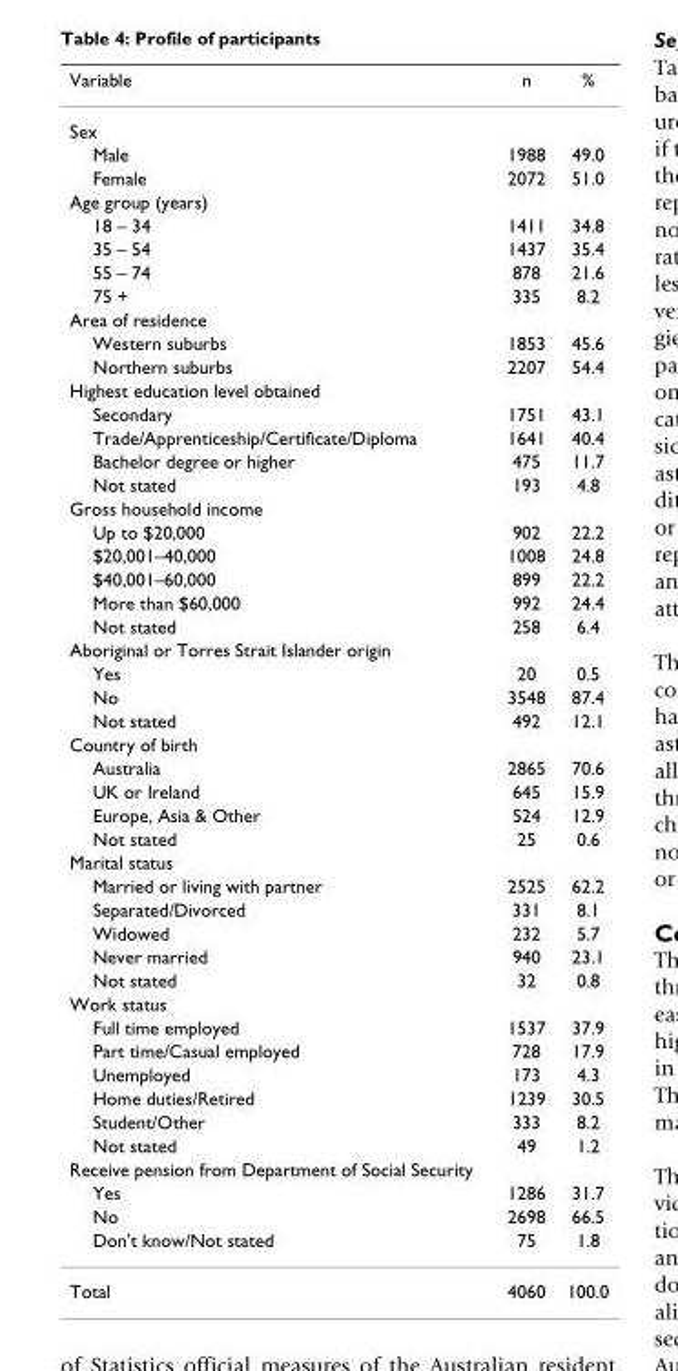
<table><thead><tr><td>Variable</td><td>n</td><td>%</td></tr></thead><tbody><tr><td colspan="3">Sex</td></tr><tr><td>Male</td><td>1988</td><td>49.0</td></tr><tr><td>Female</td><td>2072</td><td>51.0</td></tr><tr><td colspan="3">Age group (years)</td></tr><tr><td>18 – 34</td><td>1411</td><td>34.8</td></tr><tr><td>35 – 54</td><td>1437</td><td>35.4</td></tr><tr><td>55 – 74</td><td>878</td><td>21.6</td></tr><tr><td>75 +</td><td>335</td><td>8.2</td></tr><tr><td colspan="3">Area of residence</td></tr><tr><td>Western suburbs</td><td>1853</td><td>45.6</td></tr><tr><td>Northern suburbs</td><td>2207</td><td>54.4</td></tr><tr><td colspan="3">Highest education level obtained</td></tr><tr><td>Secondary</td><td>1751</td><td>43.1</td></tr><tr><td>Trade/Apprenticeship/Certificate/Diploma</td><td>1641</td><td>40.4</td></tr><tr><td>Bachelor degree or higher</td><td>475</td><td>11.7</td></tr><tr><td>Not stated</td><td>193</td><td>4.8</td></tr><tr><td colspan="3">Gross household income</td></tr><tr><td>Up to $20,000</td><td>902</td><td>22.2</td></tr><tr><td>$20,001–40,000</td><td>1008</td><td>24.8</td></tr><tr><td>$40,001–60,000</td><td>899</td><td>22.2</td></tr><tr><td>More than $60,000</td><td>992</td><td>24.4</td></tr><tr><td>Not stated</td><td>258</td><td>6.4</td></tr><tr><td colspan="3">Aboriginal or Torres Strait Islander origin</td></tr><tr><td>Yes</td><td>20</td><td>0.5</td></tr><tr><td>No</td><td>3548</td><td>87.4</td></tr><tr><td>Not stated</td><td>492</td><td>12.1</td></tr><tr><td colspan="3">Country of birth</td></tr><tr><td>Australia</td><td>2865</td><td>70.6</td></tr><tr><td>UK or Ireland</td><td>645</td><td>15.9</td></tr><tr><td>Europe, Asia &amp; Other</td><td>524</td><td>12.9</td></tr><tr><td>Not stated</td><td>25</td><td>0.6</td></tr><tr><td colspan="3">Marital status</td></tr><tr><td>Married or living with partner</td><td>2525</td><td>62.2</td></tr><tr><td>Separated/Divorced</td><td>331</td><td>8.1</td></tr><tr><td>Widowed</td><td>232</td><td>5.7</td></tr><tr><td>Never married</td><td>940</td><td>23.1</td></tr><tr><td>Not stated</td><td>32</td><td>0.8</td></tr><tr><td colspan="3">Work status</td></tr><tr><td>Full time employed</td><td>1537</td><td>37.9</td></tr><tr><td>Part time/Casual employed</td><td>728</td><td>17.9</td></tr><tr><td>Unemployed</td><td>173</td><td>4.3</td></tr><tr><td>Home duties/Retired</td><td>1239</td><td>30.5</td></tr><tr><td>Student/Other</td><td>333</td><td>8.2</td></tr><tr><td>Not stated</td><td>49</td><td>1.2</td></tr><tr><td colspan="3">Receive pension from Department of Social Security</td></tr><tr><td>Yes</td><td>1286</td><td>31.7</td></tr><tr><td>No</td><td>2698</td><td>66.5</td></tr><tr><td>Don&#x27;t know/Not stated</td><td>75</td><td>1.8</td></tr><tr><td>Total</td><td>4060</td><td>100.0</td></tr></tbody></table>